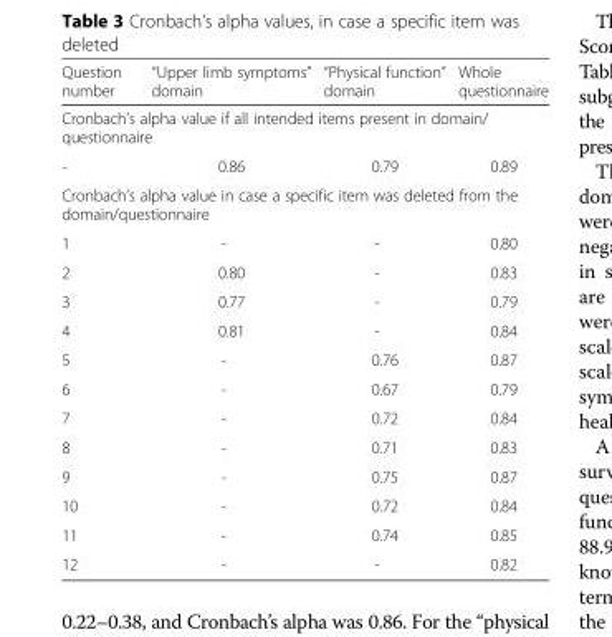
<table><thead><tr><td>Question number</td><td>“Upper limb symptoms” domain</td><td>“Physical function” domain</td><td>Whole questionnaire</td></tr></thead><tbody><tr><td colspan="4">Cronbach’s alpha value if all intended items present in domain/ questionnaire</td></tr><tr><td>-</td><td>0.86</td><td>0.79</td><td>0.89</td></tr><tr><td colspan="4">Cronbach’s alpha value in case a specific item was deleted from the domain/questionnaire</td></tr><tr><td>1</td><td>-</td><td>-</td><td>0.80</td></tr><tr><td>2</td><td>0.80</td><td>-</td><td>0.83</td></tr><tr><td>3</td><td>0.77</td><td>-</td><td>0.79</td></tr><tr><td>4</td><td>0.81</td><td>-</td><td>0.84</td></tr><tr><td>5</td><td>-</td><td>0.76</td><td>0.87</td></tr><tr><td>6</td><td>-</td><td>0.67</td><td>0.79</td></tr><tr><td>7</td><td>-</td><td>0.72</td><td>0.84</td></tr><tr><td>8</td><td>-</td><td>0.71</td><td>0.83</td></tr><tr><td>9</td><td>-</td><td>0.75</td><td>0.87</td></tr><tr><td>10</td><td>-</td><td>0.72</td><td>0.84</td></tr><tr><td>11</td><td>-</td><td>0.74</td><td>0.85</td></tr><tr><td>12</td><td>-</td><td>-</td><td>0.82</td></tr></tbody></table>